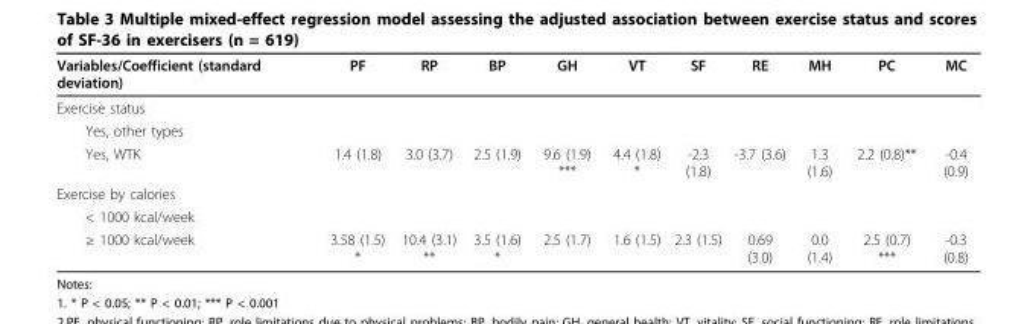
<table><thead><tr><td>Variables/Coefficient (standard deviation)</td><td>PF</td><td>RP</td><td>BP</td><td>GH</td><td>VT</td><td>SF</td><td>RE</td><td>MH</td><td>PC</td><td>MC</td></tr></thead><tbody><tr><td colspan="11">Exercise status</td></tr><tr><td colspan="11">Yes, other types</td></tr><tr><td>Yes, WTK</td><td>1.4 (1.8)</td><td>3.0 (3.7)</td><td>2.5 (1.9)</td><td>9.6 (1.9) ***</td><td>4.4 (1.8) *</td><td>-2.3 (1.8)</td><td>-3.7 (3.6)</td><td>1.3 (1.6)</td><td>2.2 (0.8)**</td><td>-0.4 (0.9)</td></tr><tr><td colspan="11">Exercise by calories</td></tr><tr><td colspan="11">&lt; 1000 kcal/week</td></tr><tr><td>≥ 1000 kcal/week</td><td>3.58 (1.5) *</td><td>10.4 (3.1) **</td><td>3.5 (1.6) *</td><td>2.5 (1.7)</td><td>1.6 (1.5)</td><td>2.3 (1.5)</td><td>0.69 (3.0)</td><td>0.0 (1.4)</td><td>2.5 (0.7) ***</td><td>-0.3 (0.8)</td></tr></tbody></table>